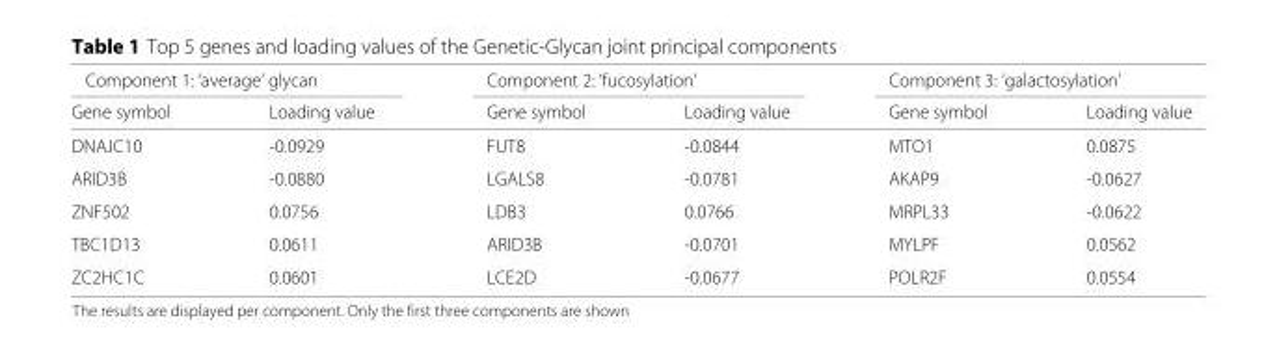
<table><thead><tr><td colspan="2">Component 1: ‘average’ glycan</td><td colspan="2">Component 2: ‘fucosylation’</td><td colspan="2">Component 3: ‘galactosylation’</td></tr><tr><td>Gene symbol</td><td>Loading value</td><td>Gene symbol</td><td>Loading value</td><td>Gene symbol</td><td>Loading value</td></tr></thead><tbody><tr><td>DNAJC10</td><td>-0.0929</td><td>FUT8</td><td>-0.0844</td><td>MTO1</td><td>0.0875</td></tr><tr><td>ARID3B</td><td>-0.0880</td><td>LGALS8</td><td>-0.0781</td><td>AKAP9</td><td>-0.0627</td></tr><tr><td>ZNF502</td><td>0.0756</td><td>LDB3</td><td>0.0766</td><td>MRPL33</td><td>-0.0622</td></tr><tr><td>TBC1D13</td><td>0.0611</td><td>ARID3B</td><td>-0.0701</td><td>MYLPF</td><td>0.0562</td></tr><tr><td>ZC2HC1C</td><td>0.0601</td><td>LCE2D</td><td>-0.0677</td><td>POLR2F</td><td>0.0554</td></tr></tbody></table>